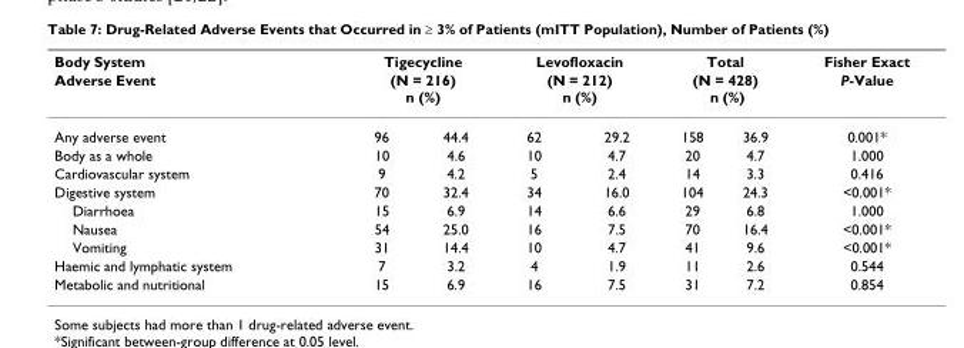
<table><thead><tr><td rowspan="3">Body System Adverse Event Any adverse event</td><td rowspan="2" colspan="2">Tigecycline (N = 216) n (%)</td><td rowspan="2" colspan="2">Levofloxacin (N = 212) n (%)</td><td rowspan="2" colspan="2">Total (N = 428) n (%)</td><td rowspan="3">Fisher Exact P-Value 0.001*</td></tr><tr></tr><tr><td>96</td><td>44.4</td><td>62</td><td>29.2</td><td>158</td><td>36.9</td></tr></thead><tbody><tr><td>Body as a whole</td><td>10</td><td>4.6</td><td>10</td><td>4.7</td><td>20</td><td>4.7</td><td>1.000</td></tr><tr><td>Cardiovascular system</td><td>9</td><td>4.2</td><td>5</td><td>2.4</td><td>14</td><td>3.3</td><td>0.416</td></tr><tr><td>Digestive system</td><td>70</td><td>32.4</td><td>34</td><td>16.0</td><td>104</td><td>24.3</td><td>&lt;0.001*</td></tr><tr><td>Diarrhoea</td><td>15</td><td>6.9</td><td>14</td><td>6.6</td><td>29</td><td>6.8</td><td>1.000</td></tr><tr><td>Nausea</td><td>54</td><td>25.0</td><td>16</td><td>7.5</td><td>70</td><td>16.4</td><td>&lt;0.001*</td></tr><tr><td>Vomiting</td><td>31</td><td>14.4</td><td>10</td><td>4.7</td><td>41</td><td>9.6</td><td>&lt;0.001*</td></tr><tr><td>Haemic and lymphatic system</td><td>7</td><td>3.2</td><td>4</td><td>1.9</td><td>11</td><td>2.6</td><td>0.544</td></tr><tr><td>Metabolic and nutritional</td><td>15</td><td>6.9</td><td>16</td><td>7.5</td><td>31</td><td>7.2</td><td>0.854</td></tr></tbody></table>